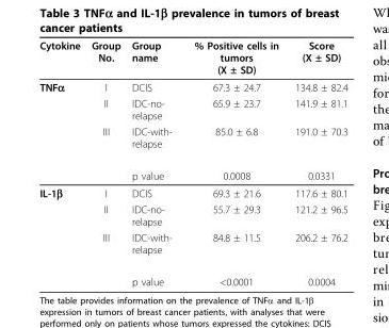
<table><thead><tr><td>Cytokine</td><td>Group No.</td><td>Group name</td><td>% Positive cells in tumors (X ± SD)</td><td>Score (X ± SD)</td></tr></thead><tbody><tr><td rowspan="4">TNFα</td><td>I</td><td>DCIS</td><td>67.3 ± 24.7</td><td>134.8 ± 82.4</td></tr><tr><td>II</td><td>IDC-no- relapse</td><td>65.9 ± 23.7</td><td>141.9 ± 81.1</td></tr><tr><td>III</td><td>IDC-with- relapse</td><td>85.0 ± 6.8</td><td>191.0 ± 70.3</td></tr><tr><td></td><td>p value</td><td>0.0008</td><td>0.0331</td></tr><tr><td rowspan="4">IL-1β</td><td>I</td><td>DCIS</td><td>69.3 ± 21.6</td><td>117.6 ± 80.1</td></tr><tr><td>II</td><td>IDC-no- relapse</td><td>55.7 ± 29.3</td><td>121.2 ± 96.5</td></tr><tr><td>III</td><td>IDC-with- relapse</td><td>84.8 ± 11.5</td><td>206.2 ± 76.2</td></tr><tr><td></td><td>p value</td><td>&lt;0.0001</td><td>0.0004</td></tr></tbody></table>